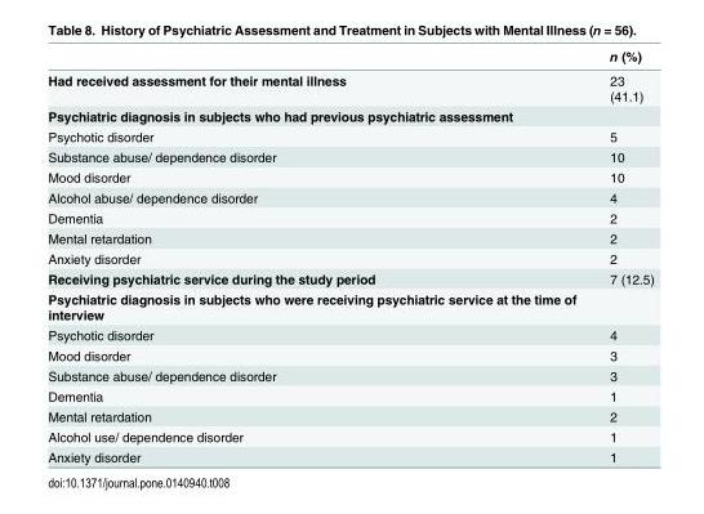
<table><thead><tr><td></td><td>n (%)</td></tr></thead><tbody><tr><td>Had received assessment for their mental illness</td><td>23 (41.1)</td></tr><tr><td colspan="2">Psychiatric diagnosis in subjects who had previous psychiatric assessment</td></tr><tr><td>Psychotic disorder</td><td>5</td></tr><tr><td>Substance abuse/ dependence disorder</td><td>10</td></tr><tr><td>Mood disorder</td><td>10</td></tr><tr><td>Alcohol abuse/ dependence disorder</td><td>4</td></tr><tr><td>Dementia</td><td>2</td></tr><tr><td>Mental retardation</td><td>2</td></tr><tr><td>Anxiety disorder</td><td>2</td></tr><tr><td>Receiving psychiatric service during the study period</td><td>7 (12.5)</td></tr><tr><td colspan="2">Psychiatric diagnosis in subjects who were receiving psychiatric service at the time of interview</td></tr><tr><td>Psychotic disorder</td><td>4</td></tr><tr><td>Mood disorder</td><td>3</td></tr><tr><td>Substance abuse/ dependence disorder</td><td>3</td></tr><tr><td>Dementia</td><td>1</td></tr><tr><td>Mental retardation</td><td>2</td></tr><tr><td>Alcohol use/ dependence disorder</td><td>1</td></tr><tr><td>Anxiety disorder</td><td>1</td></tr></tbody></table>